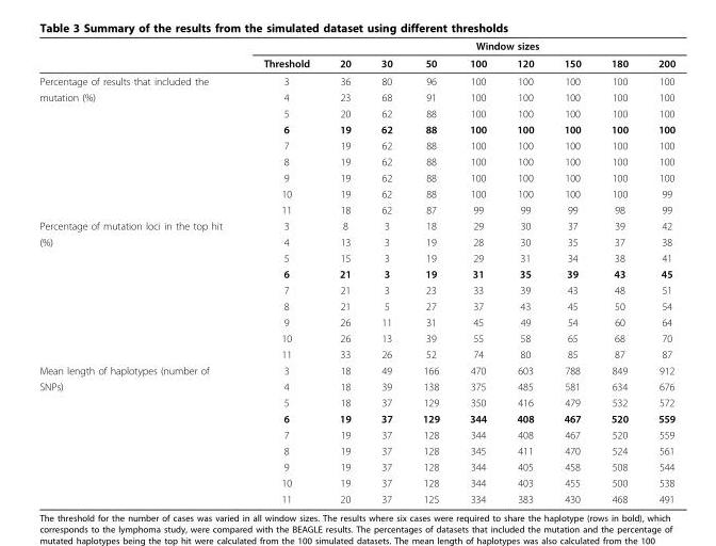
<table><thead><tr><td rowspan="2"></td><td rowspan="2">Threshold</td><td colspan="8">Window sizes</td></tr><tr><td>20</td><td>30</td><td>50</td><td>100</td><td>120</td><td>150</td><td>180</td><td>200</td></tr></thead><tbody><tr><td>Percentage of results that included the</td><td>3</td><td>36</td><td>80</td><td>96</td><td>100</td><td>100</td><td>100</td><td>100</td><td>100</td></tr><tr><td rowspan="8">mutation (%)</td><td>4</td><td>23</td><td>68</td><td>91</td><td>100</td><td>100</td><td>100</td><td>100</td><td>100</td></tr><tr><td>5</td><td>20</td><td>62</td><td>88</td><td>100</td><td>100</td><td>100</td><td>100</td><td>100</td></tr><tr><td>6</td><td>19</td><td>62</td><td>88</td><td>100</td><td>100</td><td>100</td><td>100</td><td>100</td></tr><tr><td>7</td><td>19</td><td>62</td><td>88</td><td>100</td><td>100</td><td>100</td><td>100</td><td>100</td></tr><tr><td>8</td><td>19</td><td>62</td><td>88</td><td>100</td><td>100</td><td>100</td><td>100</td><td>100</td></tr><tr><td>9</td><td>19</td><td>62</td><td>88</td><td>100</td><td>100</td><td>100</td><td>100</td><td>100</td></tr><tr><td>10</td><td>19</td><td>62</td><td>88</td><td>100</td><td>100</td><td>100</td><td>100</td><td>99</td></tr><tr><td>11</td><td>18</td><td>62</td><td>87</td><td>99</td><td>99</td><td>99</td><td>98</td><td>99</td></tr><tr><td>Percentage of mutation loci in the top hit</td><td>3</td><td>8</td><td>3</td><td>18</td><td>29</td><td>30</td><td>37</td><td>39</td><td>42</td></tr><tr><td rowspan="8">(%)</td><td>4</td><td>13</td><td>3</td><td>19</td><td>28</td><td>30</td><td>35</td><td>37</td><td>38</td></tr><tr><td>5</td><td>15</td><td>3</td><td>19</td><td>29</td><td>31</td><td>34</td><td>38</td><td>41</td></tr><tr><td>6</td><td>21</td><td>3</td><td>19</td><td>31</td><td>35</td><td>39</td><td>43</td><td>45</td></tr><tr><td>7</td><td>21</td><td>3</td><td>23</td><td>33</td><td>39</td><td>43</td><td>48</td><td>51</td></tr><tr><td>8</td><td>21</td><td>5</td><td>27</td><td>37</td><td>43</td><td>45</td><td>50</td><td>54</td></tr><tr><td>9</td><td>26</td><td>11</td><td>31</td><td>45</td><td>49</td><td>54</td><td>60</td><td>64</td></tr><tr><td>10</td><td>26</td><td>13</td><td>39</td><td>55</td><td>58</td><td>65</td><td>68</td><td>70</td></tr><tr><td>11</td><td>33</td><td>26</td><td>52</td><td>74</td><td>80</td><td>85</td><td>87</td><td>87</td></tr><tr><td>Mean length of haplotypes (number of</td><td>3</td><td>18</td><td>49</td><td>166</td><td>470</td><td>603</td><td>788</td><td>849</td><td>912</td></tr><tr><td rowspan="8">SNPs)</td><td>4</td><td>18</td><td>39</td><td>138</td><td>375</td><td>485</td><td>581</td><td>634</td><td>676</td></tr><tr><td>5</td><td>18</td><td>37</td><td>129</td><td>350</td><td>416</td><td>479</td><td>532</td><td>572</td></tr><tr><td>6</td><td>19</td><td>37</td><td>129</td><td>344</td><td>408</td><td>467</td><td>520</td><td>559</td></tr><tr><td>7</td><td>19</td><td>37</td><td>128</td><td>344</td><td>408</td><td>467</td><td>520</td><td>559</td></tr><tr><td>8</td><td>19</td><td>37</td><td>128</td><td>345</td><td>411</td><td>470</td><td>524</td><td>561</td></tr><tr><td>9</td><td>19</td><td>37</td><td>128</td><td>344</td><td>405</td><td>458</td><td>508</td><td>544</td></tr><tr><td>10</td><td>19</td><td>37</td><td>128</td><td>344</td><td>403</td><td>455</td><td>500</td><td>538</td></tr><tr><td>11</td><td>20</td><td>37</td><td>125</td><td>334</td><td>383</td><td>430</td><td>468</td><td>491</td></tr></tbody></table>